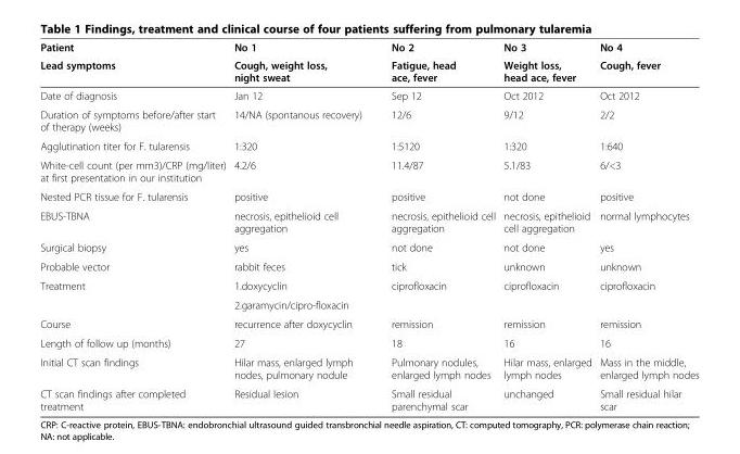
<table><thead><tr><td rowspan="2">Patient Lead symptoms</td><td rowspan="2">No 1 Cough, weight loss, night sweat</td><td rowspan="2">No 2 Fatigue, head ace, fever</td><td rowspan="2">No 3 Weight loss, head ace, fever</td><td rowspan="2">No 4 Cough, fever</td></tr><tr></tr></thead><tbody><tr><td>Date of diagnosis</td><td>Jan 12</td><td>Sep 12</td><td>Oct 2012</td><td>Oct 2012</td></tr><tr><td>Duration of symptoms before/after start of therapy (weeks)</td><td>14/NA (spontanous recovery)</td><td>12/6</td><td>9/12</td><td>2/2</td></tr><tr><td>Agglutination titer for F. tularensis</td><td>1:320</td><td>1:5120</td><td>1:320</td><td>1:640</td></tr><tr><td>White-cell count (per mm3)/CRP (mg/liter) at first presentation in our institution</td><td>4.2/6</td><td>11.4/87</td><td>5.1/83</td><td>6/&lt;3</td></tr><tr><td>Nested PCR tissue for F. tularensis</td><td>positive</td><td>positive</td><td>not done</td><td>positive</td></tr><tr><td>EBUS-TBNA</td><td>necrosis, epithelioid cell aggregation</td><td>necrosis, epithelioid cell aggregation</td><td>necrosis, epithelioid cell aggregation</td><td>normal lymphocytes</td></tr><tr><td>Surgical biopsy</td><td>yes</td><td>not done</td><td>not done</td><td>yes</td></tr><tr><td>Probable vector</td><td>rabbit feces</td><td>tick</td><td>unknown</td><td>unknown</td></tr><tr><td rowspan="2">Treatment</td><td>1.doxycyclin</td><td rowspan="2">ciprofloxacin</td><td rowspan="2">ciprofloxacin</td><td rowspan="2">ciprofloxacin</td></tr><tr><td>2.garamycin/cipro-floxacin</td></tr><tr><td>Course</td><td>recurrence after doxycyclin</td><td>remission</td><td>remission</td><td>remission</td></tr><tr><td>Length of follow up (months)</td><td>27</td><td>18</td><td>16</td><td>16</td></tr><tr><td>Initial CT scan findings</td><td>Hilar mass, enlarged lymph nodes, pulmonary nodule</td><td>Pulmonary nodules, enlarged lymph nodes</td><td>Hilar mass, enlarged lymph nodes</td><td>Mass in the middle, enlarged lymph nodes</td></tr><tr><td>CT scan findings after completed treatment</td><td>Residual lesion</td><td>Small residual parenchymal scar</td><td>unchanged</td><td>Small residual hilar scar</td></tr></tbody></table>